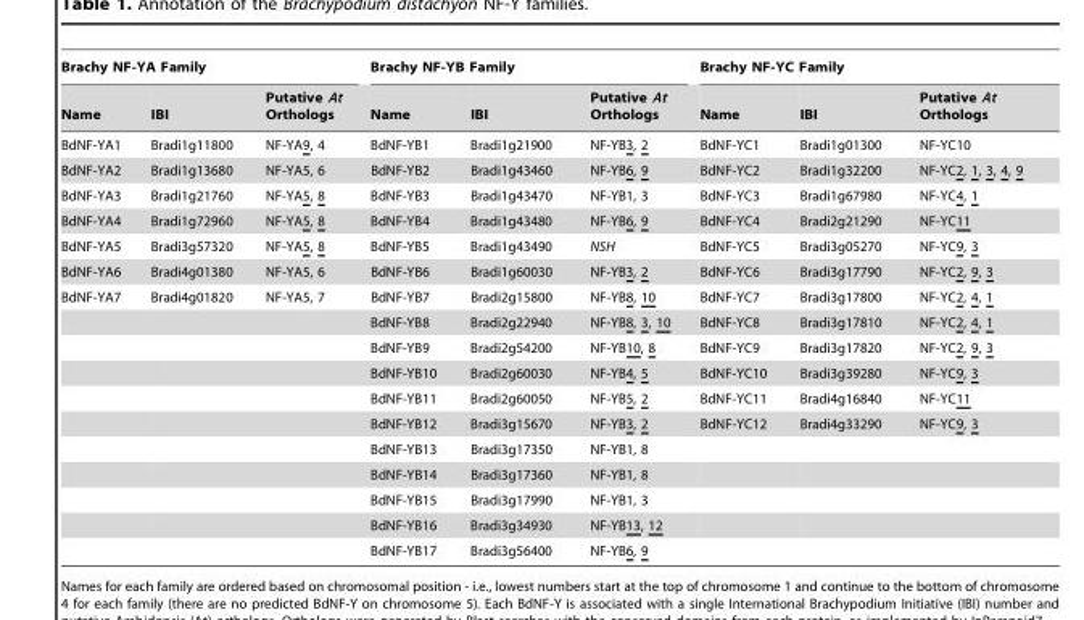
<table><thead><tr><td colspan="3">Brachy NF-YA Family</td><td colspan="3">Brachy NF-YB Family</td><td colspan="3">Brachy NF-YC Family</td></tr><tr><td>Name</td><td>IBI</td><td>Putative At Orthologs</td><td>Name</td><td>IBI</td><td>Putative At Orthologs</td><td>Name</td><td>IBI</td><td>Putative At Orthologs</td></tr></thead><tbody><tr><td>BdNF-YA1</td><td>Bradi1g11800</td><td>NF-YA9, 4</td><td>BdNF-YB1</td><td>Bradi1g21900</td><td>NF-YB3, 2</td><td>BdNF-YC1</td><td>Bradi1g01300</td><td>NF-YC10</td></tr><tr><td>BdNF-YA2</td><td>Bradi1g13680</td><td>NF-YA5, 6</td><td>BdNF-YB2</td><td>Bradi1g43460</td><td>NF-YB6, 9</td><td>BdNF-YC2</td><td>Bradi1g32200</td><td>NF-YC2, 1, 3, 4, 9</td></tr><tr><td>BdNF-YA3</td><td>Bradi1g21760</td><td>NF-YA5, 8</td><td>BdNF-YB3</td><td>Bradi1g43470</td><td>NF-YB1, 3</td><td>BdNF-YC3</td><td>Bradi1g67980</td><td>NF-YC4, 1</td></tr><tr><td>BdNF-YA4</td><td>Bradi1g72960</td><td>NF-YA5, 8</td><td>BdNF-YB4</td><td>Bradi1g43480</td><td>NF-YB6, 9</td><td>BdNF-YC4</td><td>Bradi2g21290</td><td>NF-YC11</td></tr><tr><td>BdNF-YA5</td><td>Bradi3g57320</td><td>NF-YA5, 8</td><td>BdNF-YB5</td><td>Bradi1g43490</td><td>NSH</td><td>BdNF-YC5</td><td>Bradi3g05270</td><td>NF-YC9, 3</td></tr><tr><td>BdNF-YA6</td><td>Bradi4g01380</td><td>NF-YA5, 6</td><td>BdNF-YB6</td><td>Bradi1g60030</td><td>NF-YB3, 2</td><td>BdNF-YC6</td><td>Bradi3g17790</td><td>NF-YC2, 9, 3</td></tr><tr><td rowspan="11">BdNF-YA7</td><td>Bradi4g01820</td><td>NF-YA5, 7</td><td>BdNF-YB7</td><td>Bradi2g15800</td><td>NF-YB8, 10</td><td>BdNF-YC7</td><td>Bradi3g17800</td><td>NF-YC2, 4, 1</td></tr><tr><td></td><td></td><td>BdNF-YB8</td><td>Bradi2g22940</td><td>NF-YB8, 3, 10</td><td>BdNF-YC8</td><td>Bradi3g17810</td><td>NF-YC2, 4, 1</td></tr><tr><td></td><td></td><td>BdNF-YB9</td><td>Bradi2g54200</td><td>NF-YB10, 8</td><td>BdNF-YC9</td><td>Bradi3g17820</td><td>NF-YC2, 9, 3</td></tr><tr><td></td><td></td><td>BdNF-YB10</td><td>Bradi2g60030</td><td>NF-YB4, 5</td><td>BdNF-YC10</td><td>Bradi3g39280</td><td>NF-YC9, 3</td></tr><tr><td></td><td></td><td>BdNF-YB11</td><td>Bradi2g60050</td><td>NF-YB5, 2</td><td>BdNF-YC11</td><td>Bradi4g16840</td><td>NF-YC11</td></tr><tr><td></td><td></td><td>BdNF-YB12</td><td>Bradi3g15670</td><td>NF-YB3, 2</td><td>BdNF-YC12</td><td>Bradi4g33290</td><td>NF-YC9, 3</td></tr><tr><td></td><td></td><td>BdNF-YB13</td><td>Bradi3g17350</td><td>NF-YB1, 8</td><td></td><td></td><td></td></tr><tr><td></td><td></td><td>BdNF-YB14</td><td>Bradi3g17360</td><td>NF-YB1, 8</td><td></td><td></td><td></td></tr><tr><td></td><td></td><td>BdNF-YB15</td><td>Bradi3g17990</td><td>NF-YB1, 3</td><td></td><td></td><td></td></tr><tr><td></td><td></td><td>BdNF-YB16</td><td>Bradi3g34930</td><td>NF-YB13, 12</td><td></td><td></td><td></td></tr><tr><td></td><td></td><td>BdNF-YB17</td><td>Bradi3g56400</td><td>NF-YB6, 9</td><td></td><td></td><td></td></tr></tbody></table>